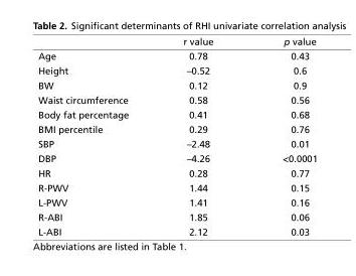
<table><thead><tr><td></td><td>r value</td><td>p value</td></tr></thead><tbody><tr><td>Age</td><td>0.78</td><td>0.43</td></tr><tr><td>Height</td><td>–0.52</td><td>0.6</td></tr><tr><td>BW</td><td>0.12</td><td>0.9</td></tr><tr><td>Waist circumference</td><td>0.58</td><td>0.56</td></tr><tr><td>Body fat percentage</td><td>0.41</td><td>0.68</td></tr><tr><td>BMI percentile</td><td>0.29</td><td>0.76</td></tr><tr><td>SBP</td><td>–2.48</td><td>0.01</td></tr><tr><td>DBP</td><td>–4.26</td><td>&lt;0.0001</td></tr><tr><td>HR</td><td>0.28</td><td>0.77</td></tr><tr><td>R-PWV</td><td>1.44</td><td>0.15</td></tr><tr><td>L-PWV</td><td>1.41</td><td>0.16</td></tr><tr><td>R-ABI</td><td>1.85</td><td>0.06</td></tr><tr><td>L-ABI</td><td>2.12</td><td>0.03</td></tr></tbody></table>